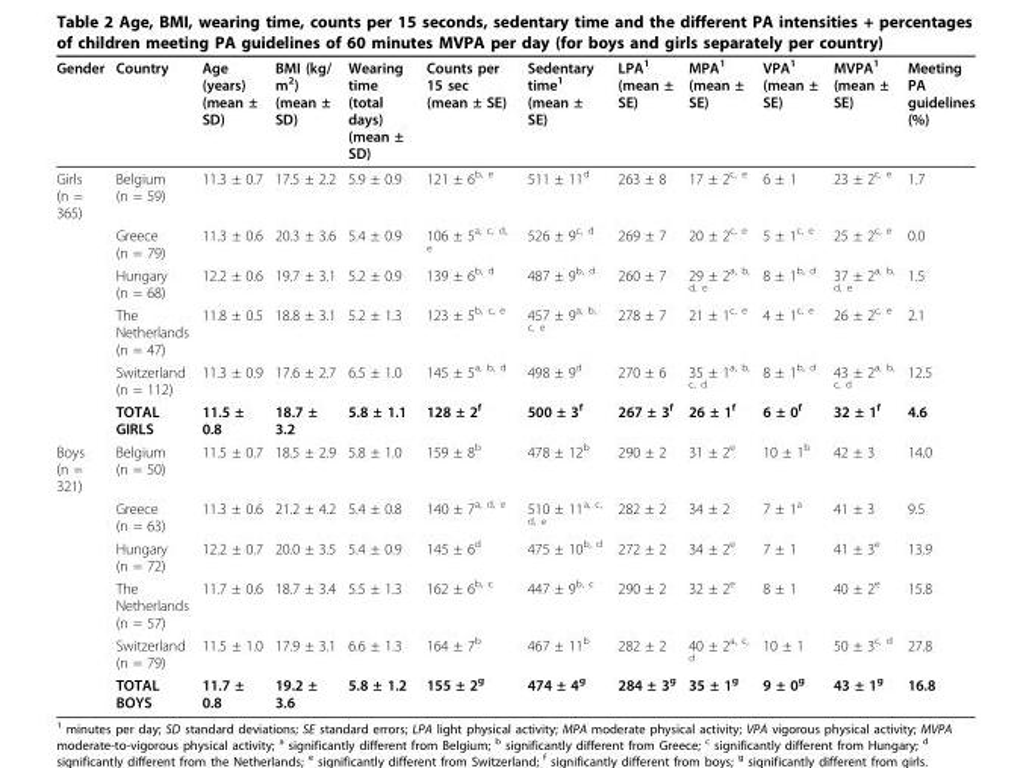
<table><thead><tr><td>Gender</td><td>Country</td><td>Age (years) (mean ± SD)</td><td>BMI (kg/ m<sup>2</sup>) (mean ± SD)</td><td>Wearing time (total days) (mean ± SD)</td><td>Counts per 15 sec (mean ± SE)</td><td>Sedentary time<sup>1</sup> (mean ± SE)</td><td>LPA<sup>1</sup> (mean ± SE)</td><td>MPA<sup>1</sup> (mean ± SE)</td><td>VPA<sup>1</sup> (mean ± SE)</td><td>MVPA<sup>1</sup> (mean ± SE)</td><td>Meeting PA guidelines (%)</td></tr></thead><tbody><tr><td rowspan="6">Girls (n = 365)</td><td>Belgium (n = 59)</td><td>11.3 ± 0.7</td><td>17.5 ± 2.2</td><td>5.9 ± 0.9</td><td>121 ± 6<sup>b, e</sup></td><td>511 ± 11<sup>d</sup></td><td>263 ± 8</td><td>17 ± 2<sup>c, e</sup></td><td>6 ± 1</td><td>23 ± 2<sup>c, e</sup></td><td>1.7</td></tr><tr><td>Greece (n = 79)</td><td>11.3 ± 0.6</td><td>20.3 ± 3.6</td><td>5.4 ± 0.9</td><td>106 ± 5<sup>a, c, d, e</sup></td><td>526 ± 9<sup>c, d</sup></td><td>269 ± 7</td><td>20 ± 2<sup>c, e</sup></td><td>5 ± 1<sup>c, e</sup></td><td>25 ± 2<sup>c, e</sup></td><td>0.0</td></tr><tr><td>Hungary (n = 68)</td><td>12.2 ± 0.6</td><td>19.7 ± 3.1</td><td>5.2 ± 0.9</td><td>139 ± 6<sup>b, d</sup></td><td>487 ± 9<sup>b, d</sup></td><td>260 ± 7</td><td>29 ± 2<sup>a, b, d, e</sup></td><td>8 ± 1<sup>b, d</sup></td><td>37 ± 2<sup>a, b, d, e</sup></td><td>1.5</td></tr><tr><td>The Netherlands (n = 47)</td><td>11.8 ± 0.5</td><td>18.8 ± 3.1</td><td>5.2 ± 1.3</td><td>123 ± 5<sup>b, c, e</sup></td><td>457 ± 9<sup>a, b, c, e</sup></td><td>278 ± 7</td><td>21 ± 1<sup>c, e</sup></td><td>4 ± 1<sup>c, e</sup></td><td>26 ± 2<sup>c, e</sup></td><td>2.1</td></tr><tr><td>Switzerland (n = 112)</td><td>11.3 ± 0.9</td><td>17.6 ± 2.7</td><td>6.5 ± 1.0</td><td>145 ± 5<sup>a, b, d</sup></td><td>498 ± 9<sup>d</sup></td><td>270 ± 6</td><td>35 ± 1<sup>a, b, c, d</sup></td><td>8 ± 1<sup>b, d</sup></td><td>43 ± 2<sup>a, b, c, d</sup></td><td>12.5</td></tr><tr><td>TOTAL GIRLS</td><td>11.5 ± 0.8</td><td>18.7 ± 3.2</td><td>5.8 ± 1.1</td><td>128 ± 2<sup>f</sup></td><td>500 ± 3<sup>f</sup></td><td>267 ± 3<sup>f</sup></td><td>26 ± 1<sup>f</sup></td><td>6 ± 0<sup>f</sup></td><td>32 ± 1<sup>f</sup></td><td>4.6</td></tr><tr><td rowspan="6">Boys (n = 321)</td><td>Belgium (n = 50)</td><td>11.5 ± 0.7</td><td>18.5 ± 2.9</td><td>5.8 ± 1.0</td><td>159 ± 8<sup>b</sup></td><td>478 ± 12<sup>b</sup></td><td>290 ± 2</td><td>31 ± 2<sup>e</sup></td><td>10 ± 1<sup>b</sup></td><td>42 ± 3</td><td>14.0</td></tr><tr><td>Greece (n = 63)</td><td>11.3 ± 0.6</td><td>21.2 ± 4.2</td><td>5.4 ± 0.8</td><td>140 ± 7<sup>a, d, e</sup></td><td>510 ± 11<sup>a, c, d, e</sup></td><td>282 ± 2</td><td>34 ± 2</td><td>7 ± 1<sup>a</sup></td><td>41 ± 3</td><td>9.5</td></tr><tr><td>Hungary (n = 72)</td><td>12.2 ± 0.7</td><td>20.0 ± 3.5</td><td>5.4 ± 0.9</td><td>145 ± 6<sup>d</sup></td><td>475 ± 10<sup>b, d</sup></td><td>272 ± 2</td><td>34 ± 2<sup>e</sup></td><td>7 ± 1</td><td>41 ± 3<sup>e</sup></td><td>13.9</td></tr><tr><td>The Netherlands (n = 57)</td><td>11.7 ± 0.6</td><td>18.7 ± 3.4</td><td>5.5 ± 1.3</td><td>162 ± 6<sup>b, c</sup></td><td>447 ± 9<sup>b, c</sup></td><td>290 ± 2</td><td>32 ± 2<sup>e</sup></td><td>8 ± 1</td><td>40 ± 2<sup>e</sup></td><td>15.8</td></tr><tr><td>Switzerland (n = 79)</td><td>11.5 ± 1.0</td><td>17.9 ± 3.1</td><td>6.6 ± 1.3</td><td>164 ± 7<sup>b</sup></td><td>467 ± 11<sup>b</sup></td><td>282 ± 2</td><td>40 ± 2<sup>a, c, d</sup></td><td>10 ± 1</td><td>50 ± 3<sup>c, d</sup></td><td>27.8</td></tr><tr><td>TOTAL BOYS</td><td>11.7 ± 0.8</td><td>19.2 ± 3.6</td><td>5.8 ± 1.2</td><td>155 ± 2<sup>g</sup></td><td>474 ± 4<sup>g</sup></td><td>284 ± 3<sup>g</sup></td><td>35 ± 1<sup>g</sup></td><td>9 ± 0<sup>g</sup></td><td>43 ± 1<sup>g</sup></td><td>16.8</td></tr></tbody></table>